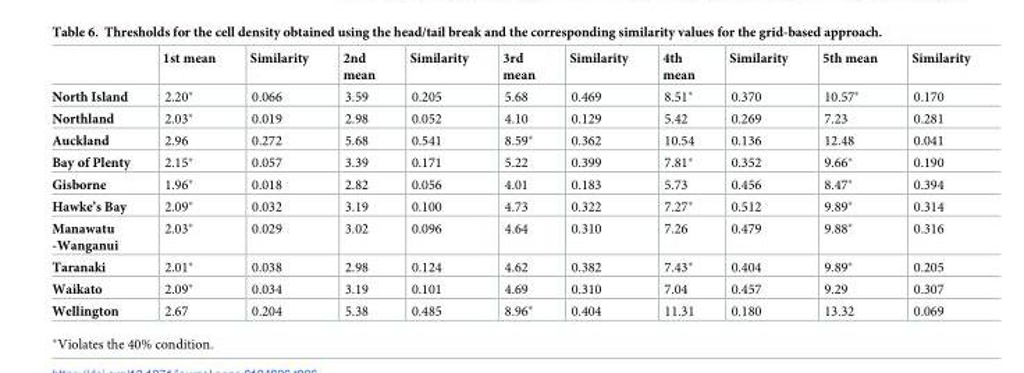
<table><thead><tr><td></td><td>1st mean</td><td>Similarity</td><td>2nd mean</td><td>Similarity</td><td>3rd mean</td><td>Similarity</td><td>4th mean</td><td>Similarity</td><td>5th mean</td><td>Similarity</td></tr></thead><tbody><tr><td>North Island</td><td>2.20*</td><td>0.066</td><td>3.59</td><td>0.205</td><td>5.68</td><td>0.469</td><td>8.51*</td><td>0.370</td><td>10.57*</td><td>0.170</td></tr><tr><td>Northland</td><td>2.03*</td><td>0.019</td><td>2.98</td><td>0.052</td><td>4.10</td><td>0.129</td><td>5.42</td><td>0.269</td><td>7.23</td><td>0.281</td></tr><tr><td>Auckland</td><td>2.96</td><td>0.272</td><td>5.68</td><td>0.541</td><td>8.59*</td><td>0.362</td><td>10.54</td><td>0.136</td><td>12.48</td><td>0.041</td></tr><tr><td>Bay of Plenty</td><td>2.15*</td><td>0.057</td><td>3.39</td><td>0.171</td><td>5.22</td><td>0.399</td><td>7.81*</td><td>0.352</td><td>9.66*</td><td>0.190</td></tr><tr><td>Gisborne</td><td>1.96*</td><td>0.018</td><td>2.82</td><td>0.056</td><td>4.01</td><td>0.183</td><td>5.73</td><td>0.456</td><td>8.47*</td><td>0.394</td></tr><tr><td>Hawke’s Bay</td><td>2.09*</td><td>0.032</td><td>3.19</td><td>0.100</td><td>4.73</td><td>0.322</td><td>7.27*</td><td>0.512</td><td>9.89*</td><td>0.314</td></tr><tr><td>Manawatu -Wanganui</td><td>2.03*</td><td>0.029</td><td>3.02</td><td>0.096</td><td>4.64</td><td>0.310</td><td>7.26</td><td>0.479</td><td>9.88*</td><td>0.316</td></tr><tr><td>Taranaki</td><td>2.01*</td><td>0.038</td><td>2.98</td><td>0.124</td><td>4.62</td><td>0.382</td><td>7.43*</td><td>0.404</td><td>9.89*</td><td>0.205</td></tr><tr><td>Waikato</td><td>2.09*</td><td>0.034</td><td>3.19</td><td>0.101</td><td>4.69</td><td>0.310</td><td>7.04</td><td>0.457</td><td>9.29</td><td>0.307</td></tr><tr><td>Wellington</td><td>2.67</td><td>0.204</td><td>5.38</td><td>0.485</td><td>8.96*</td><td>0.404</td><td>11.31</td><td>0.180</td><td>13.32</td><td>0.069</td></tr></tbody></table>